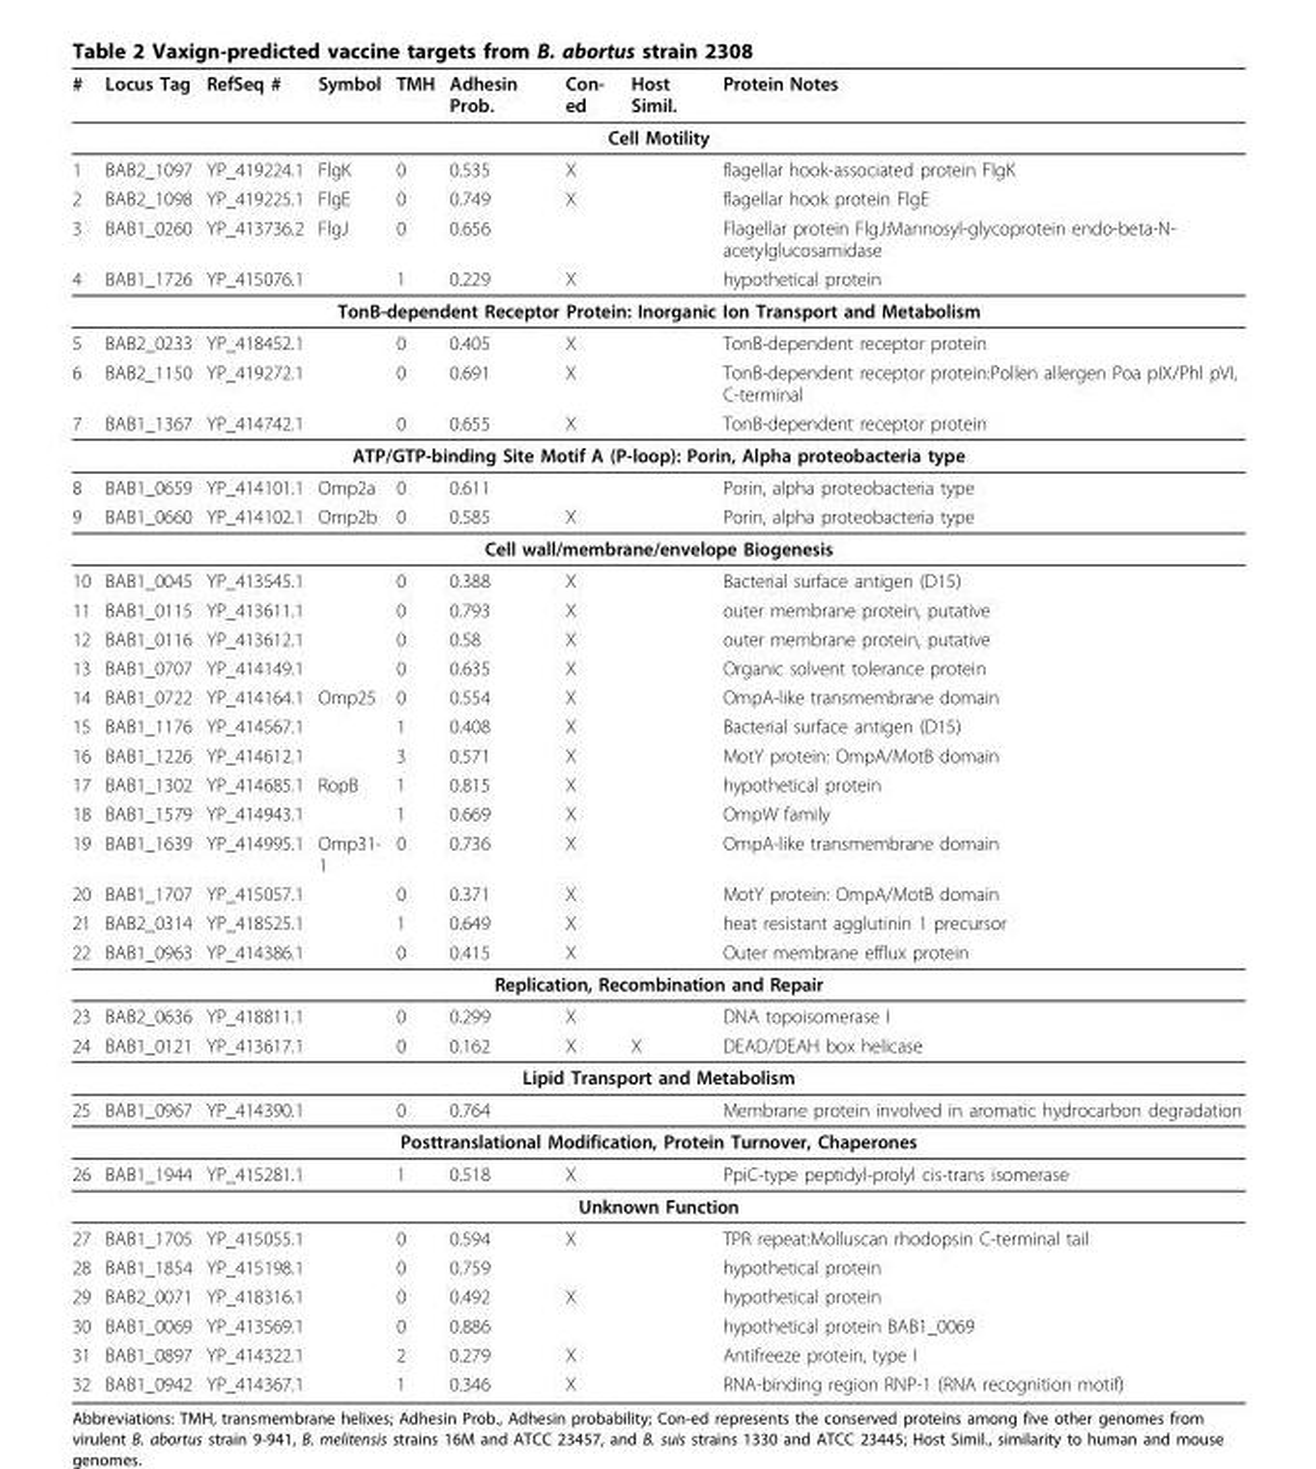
<table><thead><tr><td>#</td><td>Locus Tag</td><td>RefSeq #</td><td>Symbol</td><td>TMH</td><td>Adhesin Prob.</td><td>Con- ed</td><td>Host Simil.</td><td>Protein Notes</td></tr></thead><tbody><tr><td colspan="9">Cell Motility</td></tr><tr><td>1</td><td>BAB2_1097</td><td>YP_419224.1</td><td>FlgK</td><td>0</td><td>0.535</td><td>X</td><td></td><td>flagellar hook-associated protein FlgK</td></tr><tr><td>2</td><td>BAB2_1098</td><td>YP_419225.1</td><td>FlgE</td><td>0</td><td>0.749</td><td>X</td><td></td><td>flagellar hook protein FlgE</td></tr><tr><td>3</td><td>BAB1_0260</td><td>YP_413736.2</td><td>FlgJ</td><td>0</td><td>0.656</td><td></td><td></td><td>Flagellar protein FlgJ:Mannosyl-glycoprotein endo-beta-N- acetylglucosamidase</td></tr><tr><td>4</td><td>BAB1_1726</td><td>YP_415076.1</td><td></td><td>1</td><td>0.229</td><td>X</td><td></td><td>hypothetical protein</td></tr><tr><td colspan="9">TonB-dependent Receptor Protein: Inorganic Ion Transport and Metabolism</td></tr><tr><td>5</td><td>BAB2_0233</td><td>YP_418452.1</td><td></td><td>0</td><td>0.405</td><td>X</td><td></td><td>TonB-dependent receptor protein</td></tr><tr><td>6</td><td>BAB2_1150</td><td>YP_419272.1</td><td></td><td>0</td><td>0.691</td><td>X</td><td></td><td>TonB-dependent receptor protein:Pollen allergen Poa pIX/Phl pVI, C-terminal</td></tr><tr><td>7</td><td>BAB1_1367</td><td>YP_414742.1</td><td></td><td>0</td><td>0.655</td><td>X</td><td></td><td>TonB-dependent receptor protein</td></tr><tr><td colspan="9">ATP/GTP-binding Site Motif A (P-loop): Porin, Alpha proteobacteria type</td></tr><tr><td>8</td><td>BAB1_0659</td><td>YP_414101.1</td><td>Omp2a</td><td>0</td><td>0.611</td><td></td><td></td><td>Porin, alpha proteobacteria type</td></tr><tr><td>9</td><td>BAB1_0660</td><td>YP_414102.1</td><td>Omp2b</td><td>0</td><td>0.585</td><td>X</td><td></td><td>Porin, alpha proteobacteria type</td></tr><tr><td colspan="9">Cell wall/membrane/envelope Biogenesis</td></tr><tr><td>10</td><td>BAB1_0045</td><td>YP_413545.1</td><td></td><td>0</td><td>0.388</td><td>X</td><td></td><td>Bacterial surface antigen (D15)</td></tr><tr><td>11</td><td>BAB1_0115</td><td>YP_413611.1</td><td></td><td>0</td><td>0.793</td><td>X</td><td></td><td>outer membrane protein, putative</td></tr><tr><td>12</td><td>BAB1_0116</td><td>YP_413612.1</td><td></td><td>0</td><td>0.58</td><td>X</td><td></td><td>outer membrane protein, putative</td></tr><tr><td>13</td><td>BAB1_0707</td><td>YP_414149.1</td><td></td><td>0</td><td>0.635</td><td>X</td><td></td><td>Organic solvent tolerance protein</td></tr><tr><td>14</td><td>BAB1_0722</td><td>YP_414164.1</td><td>Omp25</td><td>0</td><td>0.554</td><td>X</td><td></td><td>OmpA-like transmembrane domain</td></tr><tr><td>15</td><td>BAB1_1176</td><td>YP_414567.1</td><td></td><td>1</td><td>0.408</td><td>X</td><td></td><td>Bacterial surface antigen (D15)</td></tr><tr><td>16</td><td>BAB1_1226</td><td>YP_414612.1</td><td></td><td>3</td><td>0.571</td><td>X</td><td></td><td>MotY protein: OmpA/MotB domain</td></tr><tr><td>17</td><td>BAB1_1302</td><td>YP_414685.1</td><td>RopB</td><td>1</td><td>0.815</td><td>X</td><td></td><td>hypothetical protein</td></tr><tr><td>18</td><td>BAB1_1579</td><td>YP_414943.1</td><td></td><td>1</td><td>0.669</td><td>X</td><td></td><td>OmpW family</td></tr><tr><td>19</td><td>BAB1_1639</td><td>YP_414995.1</td><td>Omp31- 1</td><td>0</td><td>0.736</td><td>X</td><td></td><td>OmpA-like transmembrane domain</td></tr><tr><td>20</td><td>BAB1_1707</td><td>YP_415057.1</td><td></td><td>0</td><td>0.371</td><td>X</td><td></td><td>MotY protein: OmpA/MotB domain</td></tr><tr><td>21</td><td>BAB2_0314</td><td>YP_418525.1</td><td></td><td>1</td><td>0.649</td><td>X</td><td></td><td>heat resistant agglutinin 1 precursor</td></tr><tr><td>22</td><td>BAB1_0963</td><td>YP_414386.1</td><td></td><td>0</td><td>0.415</td><td>X</td><td></td><td>Outer membrane efflux protein</td></tr><tr><td colspan="9">Replication, Recombination and Repair</td></tr><tr><td>23</td><td>BAB2_0636</td><td>YP_418811.1</td><td></td><td>0</td><td>0.299</td><td>X</td><td></td><td>DNA topoisomerase I</td></tr><tr><td>24</td><td>BAB1_0121</td><td>YP_413617.1</td><td></td><td>0</td><td>0.162</td><td>X</td><td>X</td><td>DEAD/DEAH box helicase</td></tr><tr><td colspan="9">Lipid Transport and Metabolism</td></tr><tr><td>25</td><td>BAB1_0967</td><td>YP_414390.1</td><td></td><td>0</td><td>0.764</td><td></td><td></td><td>Membrane protein involved in aromatic hydrocarbon degradation</td></tr><tr><td colspan="9">Posttranslational Modification, Protein Turnover, Chaperones</td></tr><tr><td>26</td><td>BAB1_1944</td><td>YP_415281.1</td><td></td><td>1</td><td>0.518</td><td>X</td><td></td><td>PpiC-type peptidyl-prolyl cis-trans isomerase</td></tr><tr><td colspan="9">Unknown Function</td></tr><tr><td>27</td><td>BAB1_1705</td><td>YP_415055.1</td><td></td><td>0</td><td>0.594</td><td>X</td><td></td><td>TPR repeat:Molluscan rhodopsin C-terminal tail</td></tr><tr><td>28</td><td>BAB1_1854</td><td>YP_415198.1</td><td></td><td>0</td><td>0.759</td><td></td><td></td><td>hypothetical protein</td></tr><tr><td>29</td><td>BAB2_0071</td><td>YP_418316.1</td><td></td><td>0</td><td>0.492</td><td>X</td><td></td><td>hypothetical protein</td></tr><tr><td>30</td><td>BAB1_0069</td><td>YP_413569.1</td><td></td><td>0</td><td>0.886</td><td></td><td></td><td>hypothetical protein BAB1_0069</td></tr><tr><td>31</td><td>BAB1_0897</td><td>YP_414322.1</td><td></td><td>2</td><td>0.279</td><td>X</td><td></td><td>Antifreeze protein, type I</td></tr><tr><td>32</td><td>BAB1_0942</td><td>YP_414367.1</td><td></td><td>1</td><td>0.346</td><td>X</td><td></td><td>RNA-binding region RNP-1 (RNA recognition motif)</td></tr></tbody></table>